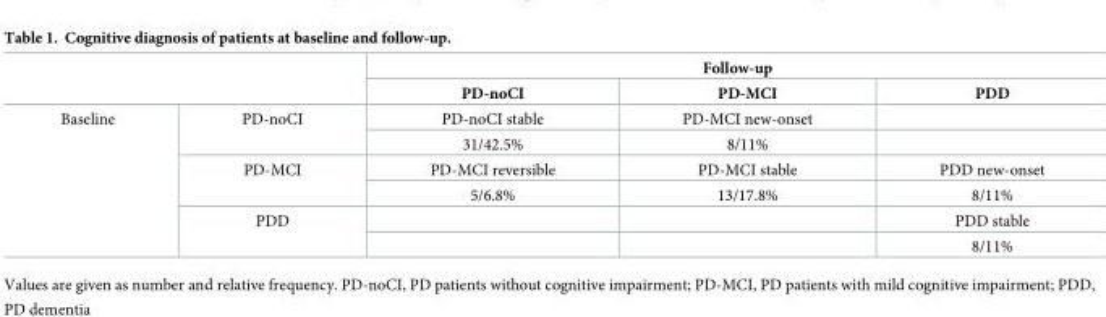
<table><thead><tr><td rowspan="2"></td><td rowspan="2"></td><td colspan="3">Follow-up</td></tr><tr><td>PD-noCI</td><td>PD-MCI</td><td>PDD</td></tr></thead><tbody><tr><td rowspan="6">Baseline</td><td rowspan="2">PD-noCI</td><td>PD-noCI stable</td><td>PD-MCI new-onset</td><td></td></tr><tr><td>31/42.5%</td><td>8/11%</td><td></td></tr><tr><td rowspan="2">PD-MCI</td><td>PD-MCI reversible</td><td>PD-MCI stable</td><td>PDD new-onset</td></tr><tr><td>5/6.8%</td><td>13/17.8%</td><td>8/11%</td></tr><tr><td rowspan="2">PDD</td><td></td><td></td><td>PDD stable</td></tr><tr><td></td><td></td><td>8/11%</td></tr></tbody></table>